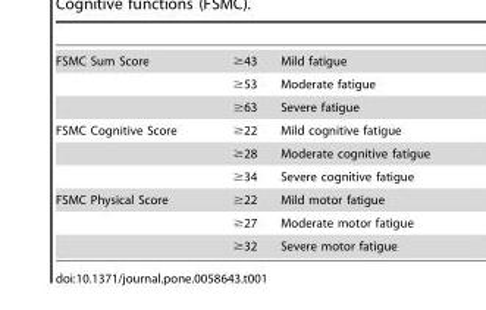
<table><tbody><tr><td rowspan="3">FSMC Sum Score</td><td>≥43</td><td>Mild fatigue</td></tr><tr><td>≥53</td><td>Moderate fatigue</td></tr><tr><td>≥63</td><td>Severe fatigue</td></tr><tr><td rowspan="3">FSMC Cognitive Score</td><td>≥22</td><td>Mild cognitive fatigue</td></tr><tr><td>≥28</td><td>Moderate cognitive fatigue</td></tr><tr><td>≥34</td><td>Severe cognitive fatigue</td></tr><tr><td rowspan="3">FSMC Physical Score</td><td>≥22</td><td>Mild motor fatigue</td></tr><tr><td>≥27</td><td>Moderate motor fatigue</td></tr><tr><td>≥32</td><td>Severe motor fatigue</td></tr></tbody></table>